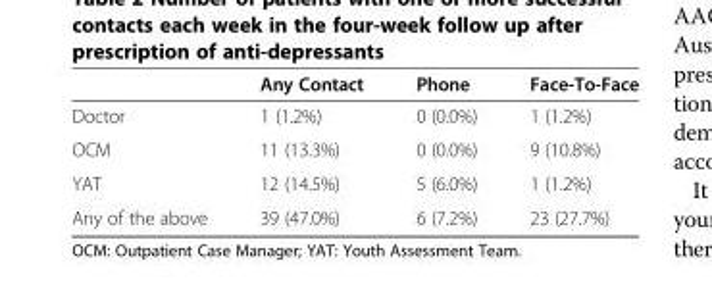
<table><thead><tr><td></td><td>Any Contact</td><td>Phone</td><td>Face-To-Face</td></tr></thead><tbody><tr><td>Doctor</td><td>1 (1.2%)</td><td>0 (0.0%)</td><td>1 (1.2%)</td></tr><tr><td>OCM</td><td>11 (13.3%)</td><td>0 (0.0%)</td><td>9 (10.8%)</td></tr><tr><td>YAT</td><td>12 (14.5%)</td><td>5 (6.0%)</td><td>1 (1.2%)</td></tr><tr><td>Any of the above</td><td>39 (47.0%)</td><td>6 (7.2%)</td><td>23 (27.7%)</td></tr></tbody></table>